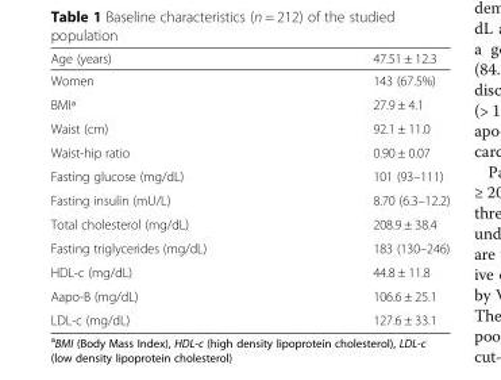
<table><thead><tr><td>Age (years)</td><td>47.51 ± 12.3</td></tr></thead><tbody><tr><td>Women</td><td>143 (67.5%)</td></tr><tr><td>BMIª</td><td>27.9 ± 4.1</td></tr><tr><td>Waist (cm)</td><td>92.1 ± 11.0</td></tr><tr><td>Waist-hip ratio</td><td>0.90 ± 0.07</td></tr><tr><td>Fasting glucose (mg/dL)</td><td>101 (93–111)</td></tr><tr><td>Fasting insulin (mU/L)</td><td>8.70 (6.3–12.2)</td></tr><tr><td>Total cholesterol (mg/dL)</td><td>208.9 ± 38.4</td></tr><tr><td>Fasting triglycerides (mg/dL)</td><td>183 (130–246)</td></tr><tr><td>HDL-c (mg/dL)</td><td>44.8 ± 11.8</td></tr><tr><td>Aapo-B (mg/dL)</td><td>106.6 ± 25.1</td></tr><tr><td>LDL-c (mg/dL)</td><td>127.6 ± 33.1</td></tr></tbody></table>